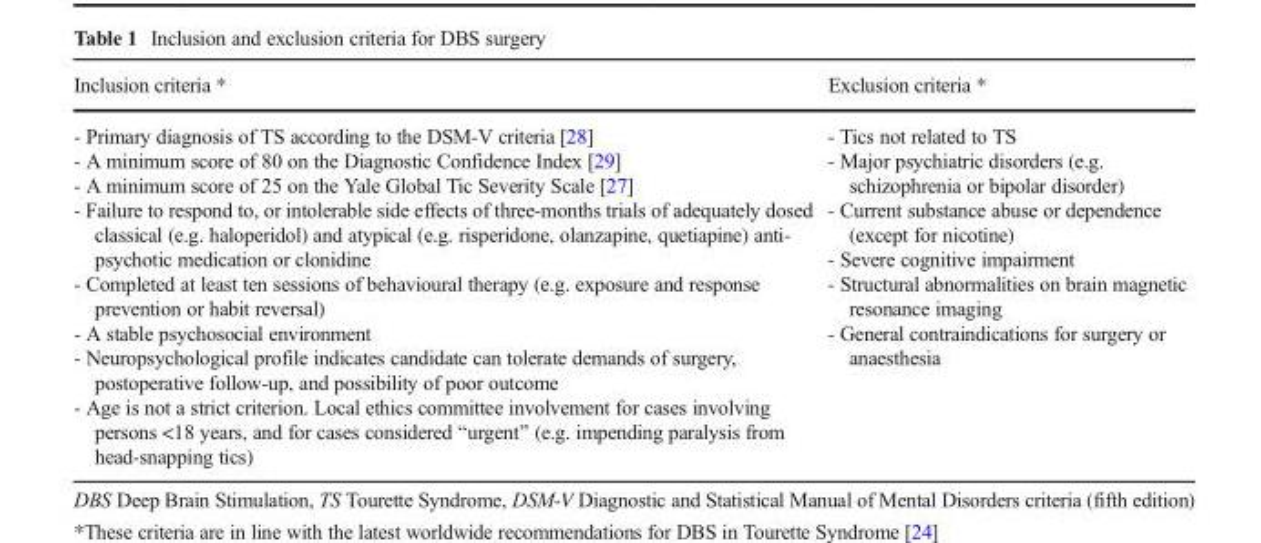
<table><thead><tr><td>Inclusion criteria *</td><td>Exclusion criteria *</td></tr></thead><tbody><tr><td>- Primary diagnosis of TS according to the DSM-V criteria [28] - A minimum score of 80 on the Diagnostic Confidence Index [29] - A minimum score of 25 on the Yale Global Tic Severity Scale [27] - Failure to respond to, or intolerable side effects of three-months trials of adequately dosed classical (e.g. haloperidol) and atypical (e.g. risperidone, olanzapine, quetiapine) anti- psychotic medication or clonidine - Completed at least ten sessions of behavioural therapy (e.g. exposure and response prevention or habit reversal) - A stable psychosocial environment - Neuropsychological profile indicates candidate can tolerate demands of surgery, postoperative follow-up, and possibility of poor outcome - Age is not a strict criterion. Local ethics committee involvement for cases involving persons &lt;18 years, and for cases considered Burgent^ (e.g. impending paralysis from head-snapping tics)</td><td>- Tics not related to TS - Major psychiatric disorders (e.g. schizophrenia or bipolar disorder) - Current substance abuse or dependence (except for nicotine) - Severe cognitive impairment - Structural abnormalities on brain magnetic resonance imaging - General contraindications for surgery or anaesthesia</td></tr></tbody></table>